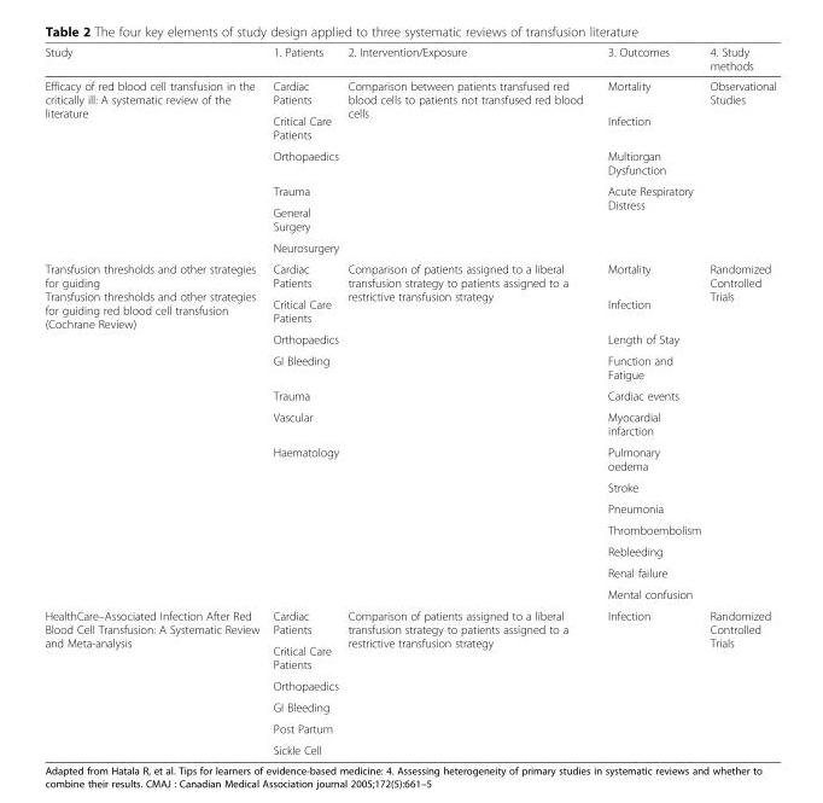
<table><thead><tr><td>Study</td><td>1. Patients</td><td>2. Intervention/Exposure</td><td>3. Outcomes</td><td>4. Study methods</td></tr></thead><tbody><tr><td rowspan="6">Efficacy of red blood cell transfusion in the critically ill: A systematic review of the literature</td><td>Cardiac Patients</td><td rowspan="6">Comparison between patients transfused red blood cells to patients not transfused red blood cells</td><td>Mortality</td><td rowspan="6">Observational Studies</td></tr><tr><td>Critical Care Patients</td><td>Infection</td></tr><tr><td>Orthopaedics</td><td>Multiorgan Dysfunction</td></tr><tr><td>Trauma</td><td rowspan="3">Acute Respiratory Distress</td></tr><tr><td>General Surgery</td></tr><tr><td>Neurosurgery</td></tr><tr><td rowspan="13">Transfusion thresholds and other strategies for guiding Transfusion thresholds and other strategies for guiding red blood cell transfusion (Cochrane Review)</td><td>Cardiac Patients</td><td rowspan="13">Comparison of patients assigned to a liberal transfusion strategy to patients assigned to a restrictive transfusion strategy</td><td>Mortality</td><td rowspan="13">Randomized Controlled Trials</td></tr><tr><td>Critical Care Patients</td><td>Infection</td></tr><tr><td>Orthopaedics</td><td>Length of Stay</td></tr><tr><td>GI Bleeding</td><td>Function and Fatigue</td></tr><tr><td>Trauma</td><td>Cardiac events</td></tr><tr><td>Vascular</td><td>Myocardial infarction</td></tr><tr><td rowspan="7">Haematology</td><td>Pulmonary oedema</td></tr><tr><td>Stroke</td></tr><tr><td>Pneumonia</td></tr><tr><td>Thromboembolism</td></tr><tr><td>Rebleeding</td></tr><tr><td>Renal failure</td></tr><tr><td>Mental confusion</td></tr><tr><td rowspan="6">HealthCare–Associated Infection After Red Blood Cell Transfusion: A Systematic Review and Meta-analysis</td><td>Cardiac Patients</td><td rowspan="6">Comparison of patients assigned to a liberal transfusion strategy to patients assigned to a restrictive transfusion strategy</td><td rowspan="6">Infection</td><td rowspan="6">Randomized Controlled Trials</td></tr><tr><td>Critical Care Patients</td></tr><tr><td>Orthopaedics</td></tr><tr><td>GI Bleeding</td></tr><tr><td>Post Partum</td></tr><tr><td>Sickle Cell</td></tr></tbody></table>